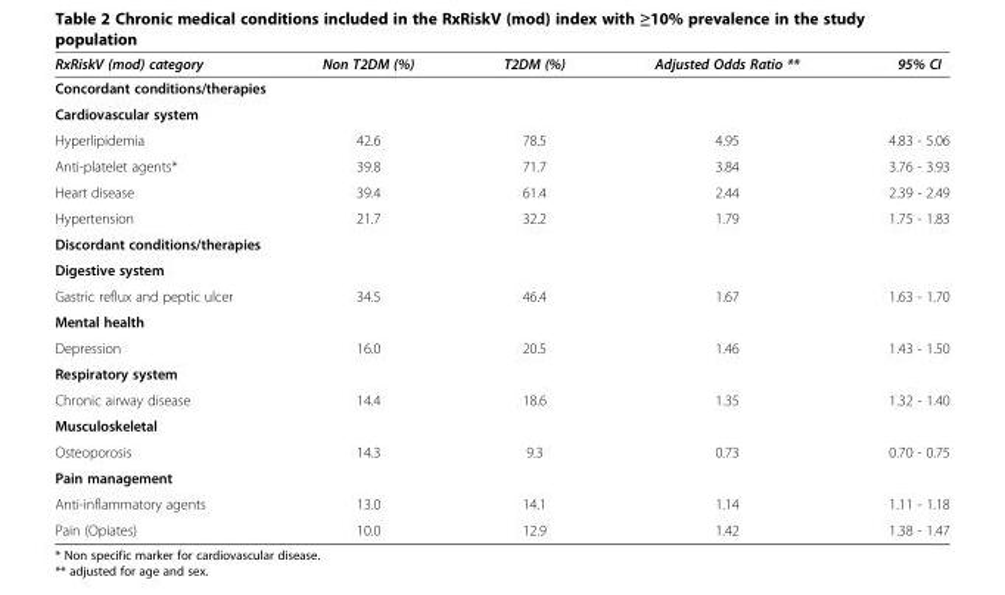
<table><thead><tr><td>RxRiskV (mod) category</td><td>Non T2DM (%)</td><td>T2DM (%)</td><td>Adjusted Odds Ratio **</td><td>95% CI</td></tr></thead><tbody><tr><td colspan="5">Concordant conditions/therapies</td></tr><tr><td colspan="5">Cardiovascular system</td></tr><tr><td>Hyperlipidemia</td><td>42.6</td><td>78.5</td><td>4.95</td><td>4.83 - 5.06</td></tr><tr><td>Anti-platelet agents*</td><td>39.8</td><td>71.7</td><td>3.84</td><td>3.76 - 3.93</td></tr><tr><td>Heart disease</td><td>39.4</td><td>61.4</td><td>2.44</td><td>2.39 - 2.49</td></tr><tr><td>Hypertension</td><td>21.7</td><td>32.2</td><td>1.79</td><td>1.75 - 1.83</td></tr><tr><td colspan="5">Discordant conditions/therapies</td></tr><tr><td colspan="5">Digestive system</td></tr><tr><td>Gastric reflux and peptic ulcer</td><td>34.5</td><td>46.4</td><td>1.67</td><td>1.63 - 1.70</td></tr><tr><td colspan="5">Mental health</td></tr><tr><td>Depression</td><td>16.0</td><td>20.5</td><td>1.46</td><td>1.43 - 1.50</td></tr><tr><td colspan="5">Respiratory system</td></tr><tr><td>Chronic airway disease</td><td>14.4</td><td>18.6</td><td>1.35</td><td>1.32 - 1.40</td></tr><tr><td colspan="5">Musculoskeletal</td></tr><tr><td>Osteoporosis</td><td>14.3</td><td>9.3</td><td>0.73</td><td>0.70 - 0.75</td></tr><tr><td colspan="5">Pain management</td></tr><tr><td>Anti-inflammatory agents</td><td>13.0</td><td>14.1</td><td>1.14</td><td>1.11 - 1.18</td></tr><tr><td>Pain (Opiates)</td><td>10.0</td><td>12.9</td><td>1.42</td><td>1.38 - 1.47</td></tr></tbody></table>